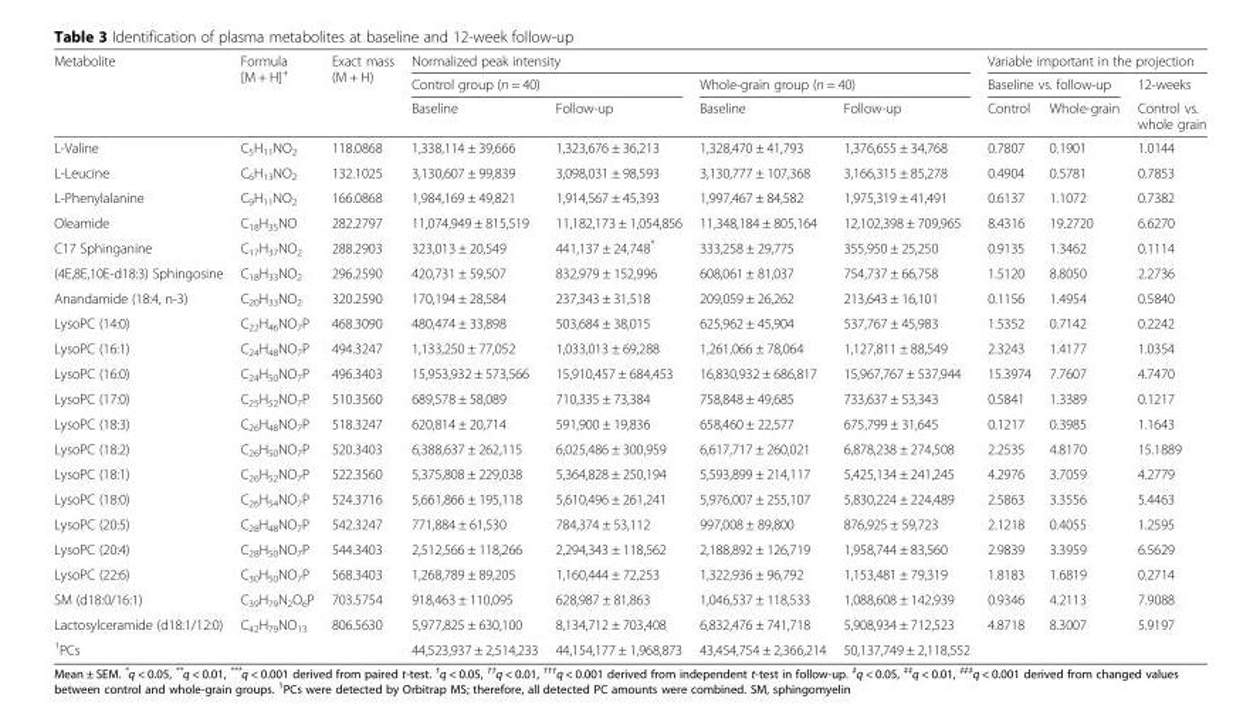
<table><thead><tr><td rowspan="3">Metabolite</td><td rowspan="3">Formula [M + H]<sup>+</sup></td><td rowspan="3">Exact mass (M + H)</td><td colspan="4">Normalized peak intensity</td><td colspan="3">Variable important in the projection</td></tr><tr><td colspan="2">Control group (n = 40)</td><td colspan="2">Whole-grain group (n = 40)</td><td colspan="2">Baseline vs. follow-up</td><td rowspan="2">12-weeks Control vs. whole grain</td></tr><tr><td>Baseline</td><td>Follow-up</td><td>Baseline</td><td>Follow-up</td><td>Control</td><td>Whole-grain</td></tr></thead><tbody><tr><td>L-Valine</td><td>C<sub>5</sub>H<sub>11</sub>NO<sub>2</sub></td><td>118.0868</td><td>1,338,114 ± 39,666</td><td>1,323,676 ± 36,213</td><td>1,328,470 ± 41,793</td><td>1,376,655 ± 34,768</td><td>0.7807</td><td>0.1901</td><td>1.0144</td></tr><tr><td>L-Leucine</td><td>C<sub>6</sub>H<sub>13</sub>NO<sub>2</sub></td><td>132.1025</td><td>3,130,607 ± 99,839</td><td>3,098,031 ± 98,593</td><td>3,130,777 ± 107,368</td><td>3,166,315 ± 85,278</td><td>0.4904</td><td>0.5781</td><td>0.7853</td></tr><tr><td>L-Phenylalanine</td><td>C<sub>9</sub>H<sub>11</sub>NO<sub>2</sub></td><td>166.0868</td><td>1,984,169 ± 49,821</td><td>1,914,567 ± 45,393</td><td>1,997,467 ± 84,582</td><td>1,975,319 ± 41,491</td><td>0.6137</td><td>1.1072</td><td>0.7382</td></tr><tr><td>Oleamide</td><td>C<sub>18</sub>H<sub>35</sub>NO</td><td>282.2797</td><td>11,074,949 ± 815,519</td><td>11,182,173 ± 1,054,856</td><td>11,348,184 ± 805,164</td><td>12,102,398 ± 709,965</td><td>8.4316</td><td>19.2720</td><td>6.6270</td></tr><tr><td>C17 Sphinganine</td><td>C<sub>17</sub>H<sub>37</sub>NO<sub>2</sub></td><td>288.2903</td><td>323,013 ± 20,549</td><td>441,137 ± 24,748*</td><td>333,258 ± 29,775</td><td>355,950 ± 25,250</td><td>0.9135</td><td>1.3462</td><td>0.1114</td></tr><tr><td>(4E,8E,10E-d18:3) Sphingosine</td><td>C<sub>18</sub>H<sub>33</sub>NO<sub>2</sub></td><td>296.2590</td><td>420,731 ± 59,507</td><td>832,979 ± 152,996</td><td>608,061 ± 81,037</td><td>754,737 ± 66,758</td><td>1.5120</td><td>8.8050</td><td>2.2736</td></tr><tr><td>Anandamide (18:4, n-3)</td><td>C<sub>20</sub>H<sub>33</sub>NO<sub>2</sub></td><td>320.2590</td><td>170,194 ± 28,584</td><td>237,343 ± 31,518</td><td>209,059 ± 26,262</td><td>213,643 ± 16,101</td><td>0.1156</td><td>1.4954</td><td>0.5840</td></tr><tr><td>LysoPC (14:0)</td><td>C<sub>22</sub>H<sub>46</sub>NO<sub>7</sub>P</td><td>468.3090</td><td>480,474 ± 33,898</td><td>503,684 ± 38,015</td><td>625,962 ± 45,904</td><td>537,767 ± 45,983</td><td>1.5352</td><td>0.7142</td><td>0.2242</td></tr><tr><td>LysoPC (16:1)</td><td>C<sub>24</sub>H<sub>48</sub>NO<sub>7</sub>P</td><td>494.3247</td><td>1,133,250 ± 77,052</td><td>1,033,013 ± 69,288</td><td>1,261,066 ± 78,064</td><td>1,127,811 ± 88,549</td><td>2.3243</td><td>1.4177</td><td>1.0354</td></tr><tr><td>LysoPC (16:0)</td><td>C<sub>24</sub>H<sub>50</sub>NO<sub>7</sub>P</td><td>496.3403</td><td>15,953,932 ± 573,566</td><td>15,910,457 ± 684,453</td><td>16,830,932 ± 686,817</td><td>15,967,767 ± 537,944</td><td>15.3974</td><td>7.7607</td><td>4.7470</td></tr><tr><td>LysoPC (17:0)</td><td>C<sub>25</sub>H<sub>52</sub>NO<sub>7</sub>P</td><td>510.3560</td><td>689,578 ± 58,089</td><td>710,335 ± 73,384</td><td>758,848 ± 49,685</td><td>733,637 ± 53,343</td><td>0.5841</td><td>1.3389</td><td>0.1217</td></tr><tr><td>LysoPC (18:3)</td><td>C<sub>26</sub>H<sub>48</sub>NO<sub>7</sub>P</td><td>518.3247</td><td>620,814 ± 20,714</td><td>591,900 ± 19,836</td><td>658,460 ± 22,577</td><td>675,799 ± 31,645</td><td>0.1217</td><td>0.3985</td><td>1.1643</td></tr><tr><td>LysoPC (18:2)</td><td>C<sub>26</sub>H<sub>50</sub>NO<sub>7</sub>P</td><td>520.3403</td><td>6,388,637 ± 262,115</td><td>6,025,486 ± 300,959</td><td>6,617,717 ± 260,021</td><td>6,878,238 ± 274,508</td><td>2.2535</td><td>4.8170</td><td>15.1889</td></tr><tr><td>LysoPC (18:1)</td><td>C<sub>26</sub>H<sub>52</sub>NO<sub>7</sub>P</td><td>522.3560</td><td>5,375,808 ± 229,038</td><td>5,364,828 ± 250,194</td><td>5,593,899 ± 214,117</td><td>5,425,134 ± 241,245</td><td>4.2976</td><td>3.7059</td><td>4.2779</td></tr><tr><td>LysoPC (18:0)</td><td>C<sub>26</sub>H<sub>54</sub>NO<sub>7</sub>P</td><td>524.3716</td><td>5,661,866 ± 195,118</td><td>5,610,496 ± 261,241</td><td>5,976,007 ± 255,107</td><td>5,830,224 ± 224,489</td><td>2.5863</td><td>3.3556</td><td>5.4463</td></tr><tr><td>LysoPC (20:5)</td><td>C<sub>28</sub>H<sub>48</sub>NO<sub>7</sub>P</td><td>542.3247</td><td>771,884 ± 61,530</td><td>784,374 ± 53,112</td><td>997,008 ± 89,800</td><td>876,925 ± 59,723</td><td>2.1218</td><td>0.4055</td><td>1.2595</td></tr><tr><td>LysoPC (20:4)</td><td>C<sub>28</sub>H<sub>50</sub>NO<sub>7</sub>P</td><td>544.3403</td><td>2,512,566 ± 118,266</td><td>2,294,343 ± 118,562</td><td>2,188,892 ± 126,719</td><td>1,958,744 ± 83,560</td><td>2.9839</td><td>3.3959</td><td>6.5629</td></tr><tr><td>LysoPC (22:6)</td><td>C<sub>30</sub>H<sub>50</sub>NO<sub>7</sub>P</td><td>568.3403</td><td>1,268,789 ± 89,205</td><td>1,160,444 ± 72,253</td><td>1,322,936 ± 96,792</td><td>1,153,481 ± 79,319</td><td>1.8183</td><td>1.6819</td><td>0.2714</td></tr><tr><td>SM (d18:0/16:1)</td><td>C<sub>39</sub>H<sub>79</sub>N<sub>2</sub>O<sub>6</sub>P</td><td>703.5754</td><td>918,463 ± 110,095</td><td>628,987 ± 81,863</td><td>1,046,537 ± 118,533</td><td>1,088,608 ± 142,939</td><td>0.9346</td><td>4.2113</td><td>7.9088</td></tr><tr><td>Lactosylceramide (d18:1/12:0)</td><td>C<sub>42</sub>H<sub>79</sub>NO<sub>13</sub></td><td>806.5630</td><td>5,977,825 ± 630,100</td><td>8,134,712 ± 703,408</td><td>6,832,476 ± 741,718</td><td>5,908,934 ± 712,523</td><td>4.8718</td><td>8.3007</td><td>5.9197</td></tr><tr><td><sup>1</sup>PCs</td><td></td><td></td><td>44,523,937 ± 2,514,233</td><td>44,154,177 ± 1,968,873</td><td>43,454,754 ± 2,366,214</td><td>50,137,749 ± 2,118,552</td><td></td><td></td><td></td></tr></tbody></table>